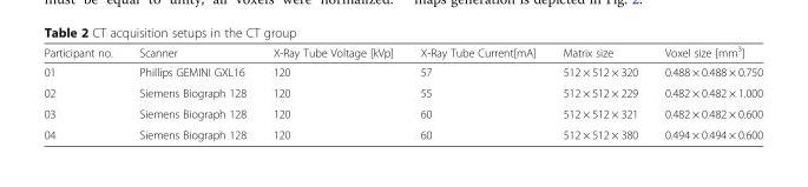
<table><thead><tr><td>Participant no.</td><td>Scanner</td><td>X-Ray Tube Voltage [kVp]</td><td>X-Ray Tube Current[mA]</td><td>Matrix size</td><td>Voxel size [mm<sup>3</sup>]</td></tr></thead><tbody><tr><td>01</td><td>Phillips GEMINI GXL16</td><td>120</td><td>57</td><td>512 × 512 × 320</td><td>0.488 × 0.488 × 0.750</td></tr><tr><td>02</td><td>Siemens Biograph 128</td><td>120</td><td>55</td><td>512 × 512 × 229</td><td>0.482 × 0.482 × 1.000</td></tr><tr><td>03</td><td>Siemens Biograph 128</td><td>120</td><td>60</td><td>512 × 512 × 321</td><td>0.482 × 0.482 × 0.600</td></tr><tr><td>04</td><td>Siemens Biograph 128</td><td>120</td><td>60</td><td>512 × 512 × 380</td><td>0.494 × 0.494 × 0.600</td></tr></tbody></table>